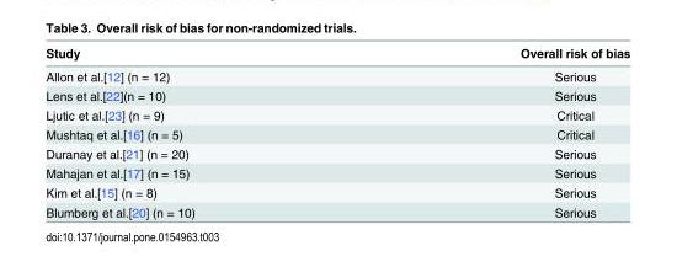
<table><thead><tr><td>Study</td><td>Overall risk of bias</td></tr></thead><tbody><tr><td>Allon et al.[12] (n = 12)</td><td>Serious</td></tr><tr><td>Lens et al.[22](n = 10)</td><td>Serious</td></tr><tr><td>Ljutic et al.[23] (n = 9)</td><td>Critical</td></tr><tr><td>Mushtaq et al.[16] (n = 5)</td><td>Critical</td></tr><tr><td>Duranay et al.[21] (n = 20)</td><td>Serious</td></tr><tr><td>Mahajan et al.[17] (n = 15)</td><td>Serious</td></tr><tr><td>Kim et al.[15] (n = 8)</td><td>Serious</td></tr><tr><td>Blumberg et al.[20] (n = 10)</td><td>Serious</td></tr></tbody></table>